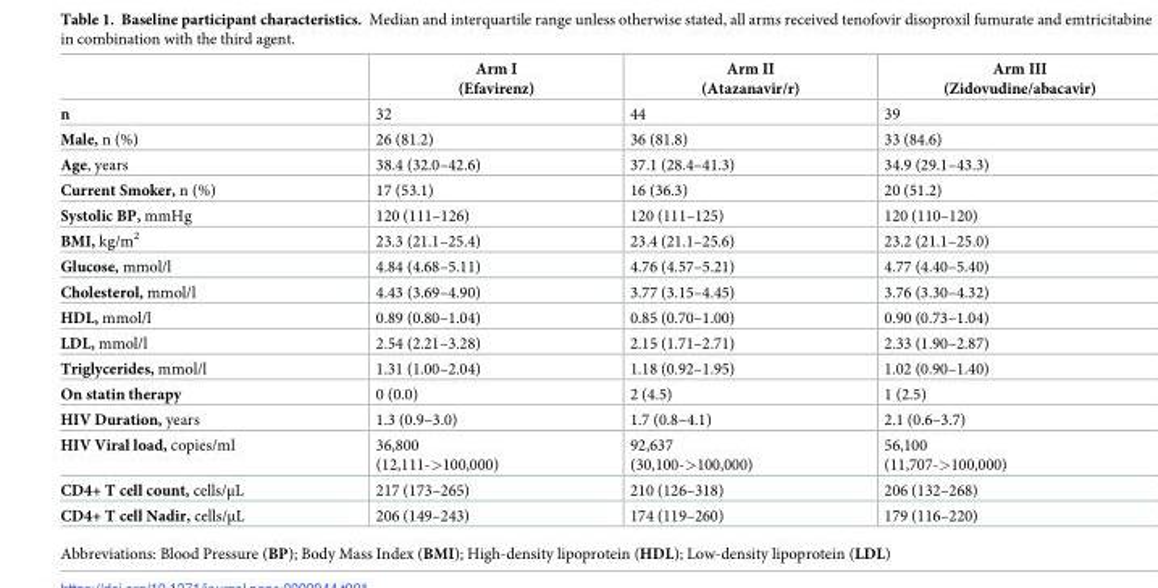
<table><thead><tr><td></td><td>Arm I (Efavirenz)</td><td>Arm II (Atazanavir/r)</td><td>Arm III (Zidovudine/abacavir)</td></tr></thead><tbody><tr><td>n</td><td>32</td><td>44</td><td>39</td></tr><tr><td>Male, n (%)</td><td>26 (81.2)</td><td>36 (81.8)</td><td>33 (84.6)</td></tr><tr><td>Age, years</td><td>38.4 (32.0–42.6)</td><td>37.1 (28.4–41.3)</td><td>34.9 (29.1–43.3)</td></tr><tr><td>Current Smoker, n (%)</td><td>17 (53.1)</td><td>16 (36.3)</td><td>20 (51.2)</td></tr><tr><td>Systolic BP, mmHg</td><td>120 (111–126)</td><td>120 (111–125)</td><td>120 (110–120)</td></tr><tr><td>BMI, kg/m<sup>2</sup></td><td>23.3 (21.1–25.4)</td><td>23.4 (21.1–25.6)</td><td>23.2 (21.1–25.0)</td></tr><tr><td>Glucose, mmol/l</td><td>4.84 (4.68–5.11)</td><td>4.76 (4.57–5.21)</td><td>4.77 (4.40–5.40)</td></tr><tr><td>Cholesterol, mmol/l</td><td>4.43 (3.69–4.90)</td><td>3.77 (3.15–4.45)</td><td>3.76 (3.30–4.32)</td></tr><tr><td>HDL, mmol/l</td><td>0.89 (0.80–1.04)</td><td>0.85 (0.70–1.00)</td><td>0.90 (0.73–1.04)</td></tr><tr><td>LDL, mmol/l</td><td>2.54 (2.21–3.28)</td><td>2.15 (1.71–2.71)</td><td>2.33 (1.90–2.87)</td></tr><tr><td>Triglycerides, mmol/l</td><td>1.31 (1.00–2.04)</td><td>1.18 (0.92–1.95)</td><td>1.02 (0.90–1.40)</td></tr><tr><td>On statin therapy</td><td>0 (0.0)</td><td>2 (4.5)</td><td>1 (2.5)</td></tr><tr><td>HIV Duration, years</td><td>1.3 (0.9–3.0)</td><td>1.7 (0.8–4.1)</td><td>2.1 (0.6–3.7)</td></tr><tr><td>HIV Viral load, copies/ml</td><td>36,800 (12,111-&gt;100,000)</td><td>92,637 (30,100-&gt;100,000)</td><td>56,100 (11,707-&gt;100,000)</td></tr><tr><td>CD4+ T cell count, cells/μL</td><td>217 (173–265)</td><td>210 (126–318)</td><td>206 (132–268)</td></tr><tr><td>CD4+ T cell Nadir, cells/μL</td><td>206 (149–243)</td><td>174 (119–260)</td><td>179 (116–220)</td></tr></tbody></table>